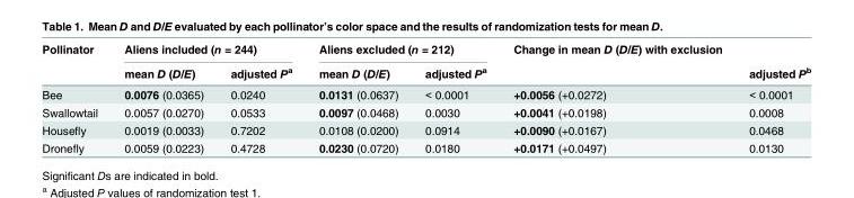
<table><thead><tr><td rowspan="2">Pollinator</td><td colspan="2">Aliens included (n = 244)</td><td colspan="2">Aliens excluded (n = 212)</td><td rowspan="2">Change in mean D (D/E) with exclusion</td><td rowspan="2">adjusted P<sup>b</sup></td></tr><tr><td>mean D (D/E)</td><td>adjusted P<sup>a</sup></td><td>mean D (D/E)</td><td>adjusted P<sup>a</sup></td></tr></thead><tbody><tr><td>Bee</td><td>0.0076 (0.0365)</td><td>0.0240</td><td>0.0131 (0.0637)</td><td>&lt; 0.0001</td><td>+0.0056 (+0.0272)</td><td>&lt; 0.0001</td></tr><tr><td>Swallowtail</td><td>0.0057 (0.0270)</td><td>0.0533</td><td>0.0097 (0.0468)</td><td>0.0030</td><td>+0.0041 (+0.0198)</td><td>0.0008</td></tr><tr><td>Housefly</td><td>0.0019 (0.0033)</td><td>0.7202</td><td>0.0108 (0.0200)</td><td>0.0914</td><td>+0.0090 (+0.0167)</td><td>0.0468</td></tr><tr><td>Dronefly</td><td>0.0059 (0.0223)</td><td>0.4728</td><td>0.0230 (0.0720)</td><td>0.0180</td><td>+0.0171 (+0.0497)</td><td>0.0130</td></tr></tbody></table>